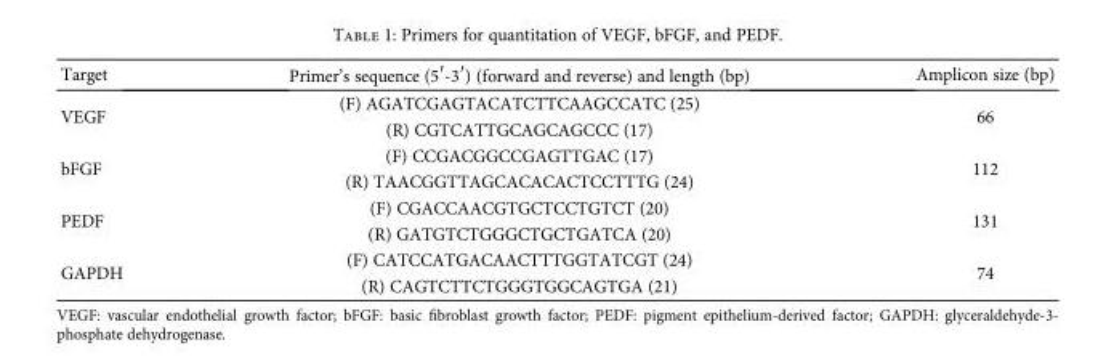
<table><thead><tr><td>Target</td><td>Primer’s sequence (5′-3′) (forward and reverse) and length (bp)</td><td>Amplicon size (bp)</td></tr></thead><tbody><tr><td rowspan="2">VEGF</td><td>(F) AGATCGAGTACATCTTCAAGCCATC (25)</td><td rowspan="2">66</td></tr><tr><td>(R) CGTCATTGCAGCAGCCC (17)</td></tr><tr><td rowspan="2">bFGF</td><td>(F) CCGACGGCCGAGTTGAC (17)</td><td rowspan="2">112</td></tr><tr><td>(R) TAACGGTTAGCACACACTCCTTTG (24)</td></tr><tr><td rowspan="2">PEDF</td><td>(F) CGACCAACGTGCTCCTGTCT (20)</td><td rowspan="2">131</td></tr><tr><td>(R) GATGTCTGGGCTGCTGATCA (20)</td></tr><tr><td rowspan="2">GAPDH</td><td>(F) CATCCATGACAACTTTGGTATCGT (24)</td><td rowspan="2">74</td></tr><tr><td>(R) CAGTCTTCTGGGTGGCAGTGA (21)</td></tr></tbody></table>